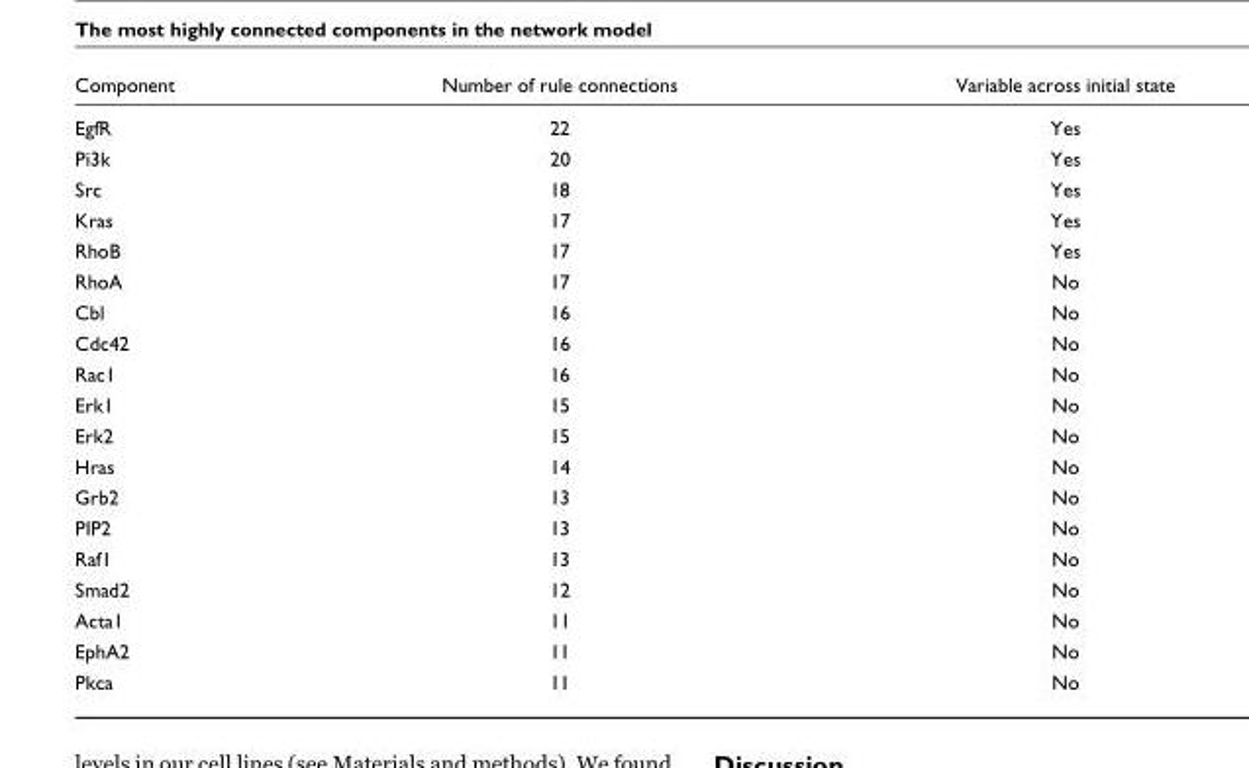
<table><thead><tr><td>Component</td><td>Number of rule connections</td><td>Variable across initial state</td></tr></thead><tbody><tr><td>EgfR</td><td>22</td><td>Yes</td></tr><tr><td>Pi3k</td><td>20</td><td>Yes</td></tr><tr><td>Src</td><td>18</td><td>Yes</td></tr><tr><td>Kras</td><td>17</td><td>Yes</td></tr><tr><td>RhoB</td><td>17</td><td>Yes</td></tr><tr><td>RhoA</td><td>17</td><td>No</td></tr><tr><td>Cbl</td><td>16</td><td>No</td></tr><tr><td>Cdc42</td><td>16</td><td>No</td></tr><tr><td>Rac1</td><td>16</td><td>No</td></tr><tr><td>Erk1</td><td>15</td><td>No</td></tr><tr><td>Erk2</td><td>15</td><td>No</td></tr><tr><td>Hras</td><td>14</td><td>No</td></tr><tr><td>Grb2</td><td>13</td><td>No</td></tr><tr><td>PIP2</td><td>13</td><td>No</td></tr><tr><td>Raf1</td><td>13</td><td>No</td></tr><tr><td>Smad2</td><td>12</td><td>No</td></tr><tr><td>Acta1</td><td>11</td><td>No</td></tr><tr><td>EphA2</td><td>11</td><td>No</td></tr><tr><td>Pkca</td><td>11</td><td>No</td></tr></tbody></table>